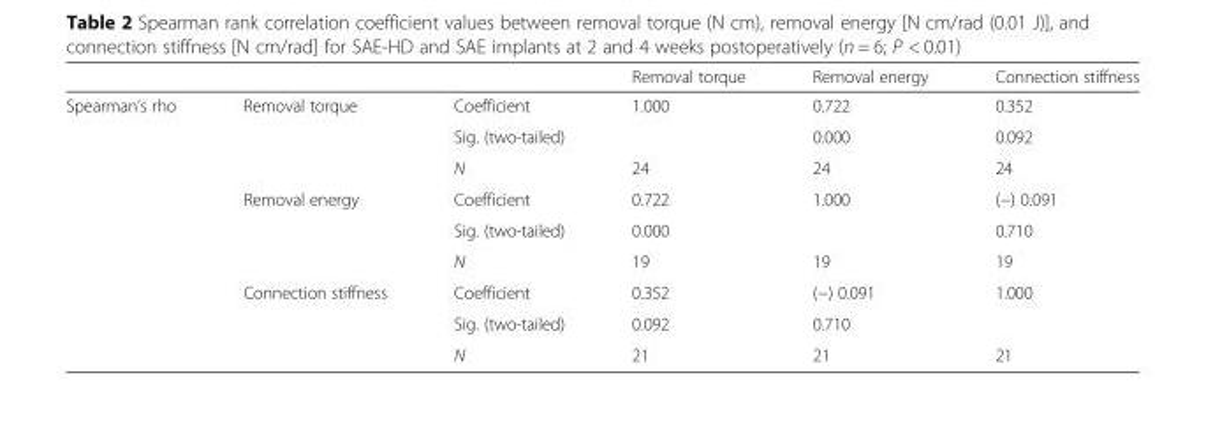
<table><thead><tr><td></td><td></td><td></td><td>Removal torque</td><td>Removal energy</td><td>Connection stiffness</td></tr></thead><tbody><tr><td rowspan="9">Spearman’s rho</td><td rowspan="3">Removal torque</td><td>Coefficient</td><td>1.000</td><td>0.722</td><td>0.352</td></tr><tr><td>Sig. (two-tailed)</td><td></td><td>0.000</td><td>0.092</td></tr><tr><td>N</td><td>24</td><td>24</td><td>24</td></tr><tr><td rowspan="3">Removal energy</td><td>Coefficient</td><td>0.722</td><td>1.000</td><td>(−) 0.091</td></tr><tr><td>Sig. (two-tailed)</td><td>0.000</td><td></td><td>0.710</td></tr><tr><td>N</td><td>19</td><td>19</td><td>19</td></tr><tr><td rowspan="3">Connection stiffness</td><td>Coefficient</td><td>0.352</td><td>(−) 0.091</td><td>1.000</td></tr><tr><td>Sig. (two-tailed)</td><td>0.092</td><td>0.710</td><td></td></tr><tr><td>N</td><td>21</td><td>21</td><td>21</td></tr></tbody></table>